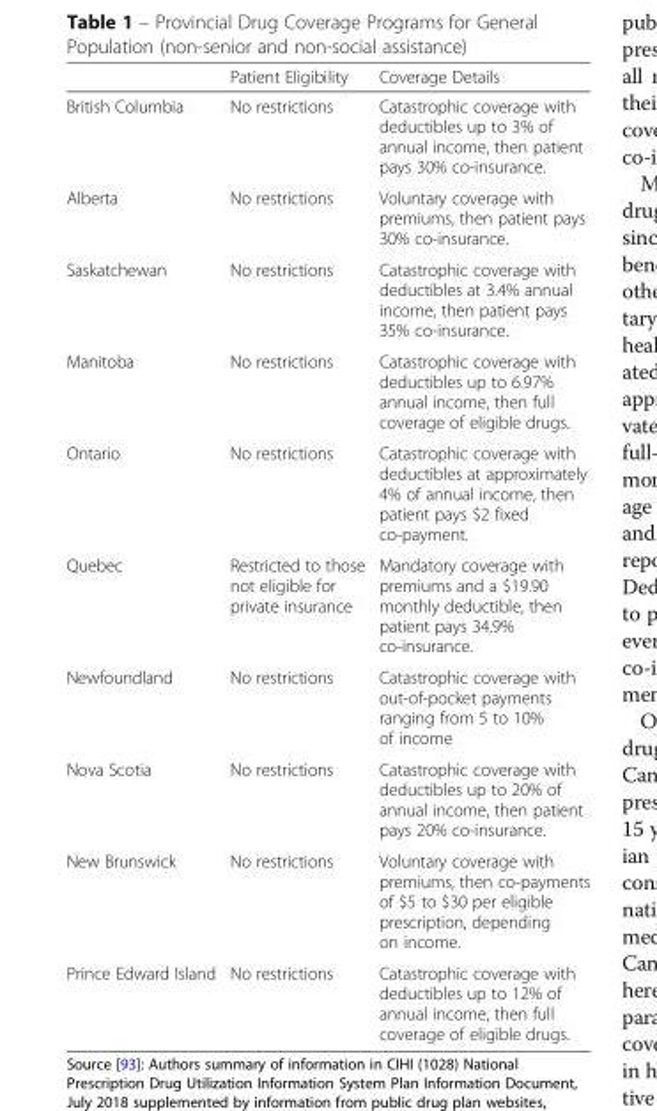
<table><thead><tr><td></td><td>Patient Eligibility</td><td>Coverage Details</td></tr></thead><tbody><tr><td>British Columbia</td><td>No restrictions</td><td>Catastrophic coverage with deductibles up to 3% of annual income, then patient pays 30% co-insurance.</td></tr><tr><td>Alberta</td><td>No restrictions</td><td>Voluntary coverage with premiums, then patient pays 30% co-insurance.</td></tr><tr><td>Saskatchewan</td><td>No restrictions</td><td>Catastrophic coverage with deductibles at 3.4% annual income, then patient pays 35% co-insurance.</td></tr><tr><td>Manitoba</td><td>No restrictions</td><td>Catastrophic coverage with deductibles up to 6.97% annual income, then full coverage of eligible drugs.</td></tr><tr><td>Ontario</td><td>No restrictions</td><td>Catastrophic coverage with deductibles at approximately 4% of annual income, then patient pays $2 fixed co-payment.</td></tr><tr><td>Quebec</td><td>Restricted to those not eligible for private insurance</td><td>Mandatory coverage with premiums and a $19.90 monthly deductible, then patient pays 34.9% co-insurance.</td></tr><tr><td>Newfoundland</td><td>No restrictions</td><td>Catastrophic coverage with out-of-pocket payments ranging from 5 to 10% of income</td></tr><tr><td>Nova Scotia</td><td>No restrictions</td><td>Catastrophic coverage with deductibles up to 20% of annual income, then patient pays 20% co-insurance.</td></tr><tr><td>New Brunswick</td><td>No restrictions</td><td>Voluntary coverage with premiums, then co-payments of $5 to $30 per eligible prescription, depending on income.</td></tr><tr><td>Prince Edward Island</td><td>No restrictions</td><td>Catastrophic coverage with deductibles up to 12% of annual income, then full coverage of eligible drugs.</td></tr></tbody></table>